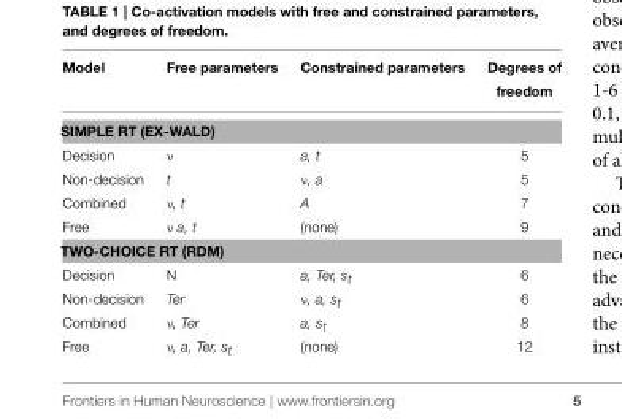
<table><thead><tr><td>Model</td><td>Free parameters</td><td>Constrained parameters</td><td>Degrees of freedom</td></tr></thead><tbody><tr><td colspan="4">SIMPLE RT (EX-WALD)</td></tr><tr><td>Decision</td><td>ν</td><td>a, t</td><td>5</td></tr><tr><td>Non-decision</td><td>t</td><td>ν, a</td><td>5</td></tr><tr><td>Combined</td><td>ν, t</td><td>A</td><td>7</td></tr><tr><td>Free</td><td>ν a, t</td><td>(none)</td><td>9</td></tr><tr><td colspan="4">TWO-CHOICE RT (RDM)</td></tr><tr><td>Decision</td><td>N</td><td>a, Ter, s<sub>t</sub></td><td>6</td></tr><tr><td>Non-decision</td><td>Ter</td><td>ν, a, s<sub>t</sub></td><td>6</td></tr><tr><td>Combined</td><td>ν, Ter</td><td>a, s<sub>t</sub></td><td>8</td></tr><tr><td>Free</td><td>ν, a, Ter, s<sub>t</sub></td><td>(none)</td><td>12</td></tr></tbody></table>